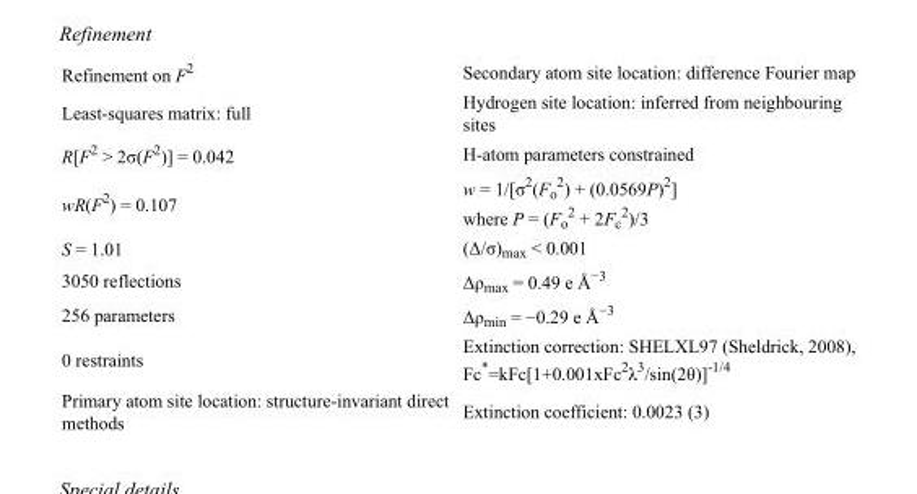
<table><tbody><tr><td>Refinement on F<sup>2</sup></td><td>Secondary atom site location: difference Fourier map</td></tr><tr><td>Least-squares matrix: full</td><td>Hydrogen site location: inferred from neighbouring sites</td></tr><tr><td>R[F<sup>2</sup> &gt; 2σ(F<sup>2</sup>)] = 0.042</td><td>H-atom parameters constrained</td></tr><tr><td>wR(F<sup>2</sup>) = 0.107</td><td>w = 1/[σ<sup>2</sup>(F<sub>o</sub> <sup>2</sup>) + (0.0569P)<sup>2</sup>] where P = (F<sub>o</sub> <sup>2</sup> + 2F<sub>c</sub> <sup>2</sup>)/3</td></tr><tr><td>S = 1.01</td><td>(Δ/σ)<sub>max</sub> &lt; 0.001</td></tr><tr><td>3050 reflections</td><td>Δρ<sub>max</sub> = 0.49 e Å<sup>−3</sup></td></tr><tr><td>256 parameters</td><td>Δρ<sub>min</sub> = −0.29 e Å<sup>−3</sup></td></tr><tr><td>0 restraints</td><td>Extinction correction: SHELXL97 (Sheldrick, 2008), Fc*=kFc[1+0.001xFc<sup>2</sup>λ<sup>3</sup>/sin(2θ)]<sup>-1/4</sup></td></tr><tr><td>Primary atom site location: structure-invariant direct methods</td><td>Extinction coefficient: 0.0023 (3)</td></tr></tbody></table>